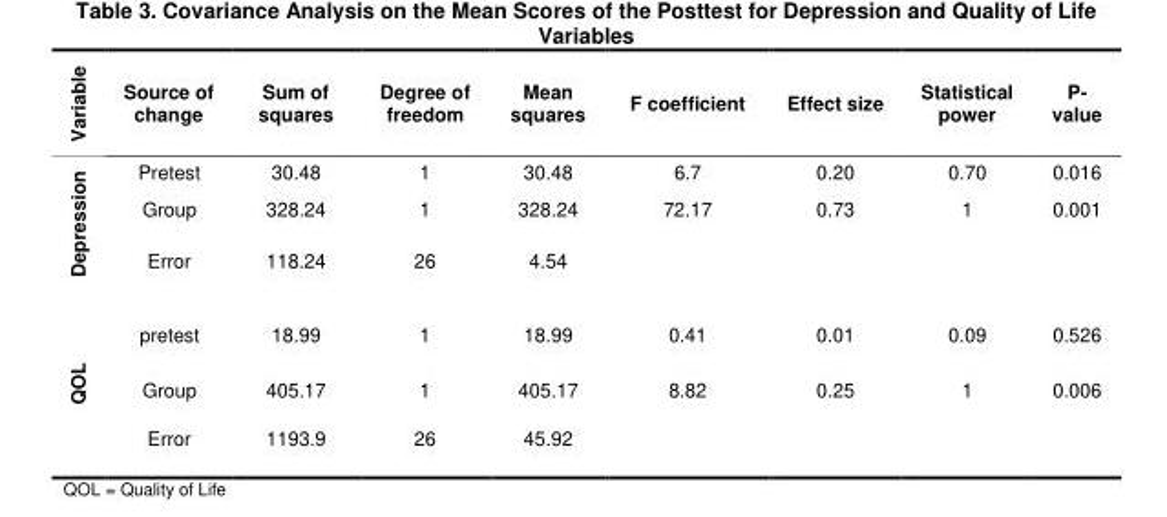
<table><thead><tr><td>Variable</td><td>Source of change</td><td>Sum of squares</td><td>Degree of freedom</td><td>Mean squares</td><td>F coefficient</td><td>Effect size</td><td>Statistical power</td><td>P- value</td></tr></thead><tbody><tr><td rowspan="3">Depression</td><td>Pretest</td><td>30.48</td><td>1</td><td>30.48</td><td>6.7</td><td>0.20</td><td>0.70</td><td>0.016</td></tr><tr><td>Group</td><td>328.24</td><td>1</td><td>328.24</td><td>72.17</td><td>0.73</td><td>1</td><td>0.001</td></tr><tr><td>Error</td><td>118.24</td><td>26</td><td>4.54</td><td></td><td></td><td></td><td></td></tr><tr><td rowspan="3">QOL</td><td>pretest</td><td>18.99</td><td>1</td><td>18.99</td><td>0.41</td><td>0.01</td><td>0.09</td><td>0.526</td></tr><tr><td>Group</td><td>405.17</td><td>1</td><td>405.17</td><td>8.82</td><td>0.25</td><td>1</td><td>0.006</td></tr><tr><td>Error</td><td>1193.9</td><td>26</td><td>45.92</td><td></td><td></td><td></td><td></td></tr></tbody></table>